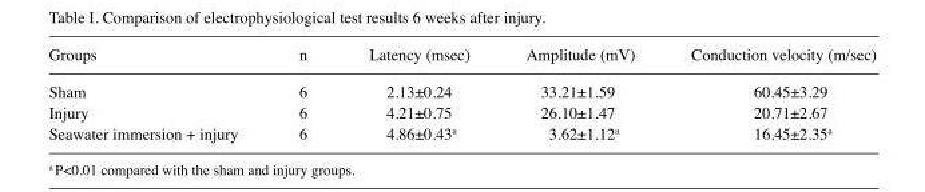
<table><thead><tr><td>Groups</td><td>n</td><td>Latency (msec)</td><td>Amplitude (mV)</td><td>Conduction velocity (m/sec)</td></tr></thead><tbody><tr><td>Sham</td><td>6</td><td>2.13±0.24</td><td>33.21±1.59</td><td>60.45±3.29</td></tr><tr><td>Injury</td><td>6</td><td>4.21±0.75</td><td>26.10±1.47</td><td>20.71±2.67</td></tr><tr><td>Seawater immersion + injury</td><td>6</td><td>4.86±0.43<sup>a</sup></td><td>3.62±1.12<sup>a</sup></td><td>16.45±2.35<sup>a</sup></td></tr></tbody></table>